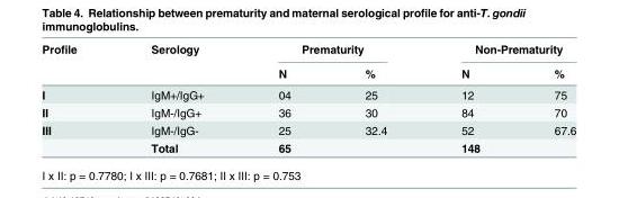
<table><thead><tr><td rowspan="2">Profile</td><td rowspan="2">Serology</td><td colspan="2">Prematurity</td><td colspan="2">Non-Prematurity</td></tr><tr><td>N</td><td>%</td><td>N</td><td>%</td></tr></thead><tbody><tr><td>I</td><td>IgM+/IgG+</td><td>04</td><td>25</td><td>12</td><td>75</td></tr><tr><td>II</td><td>IgM-/IgG+</td><td>36</td><td>30</td><td>84</td><td>70</td></tr><tr><td rowspan="2">III</td><td>IgM-/IgG-</td><td>25</td><td>32.4</td><td>52</td><td>67.6</td></tr><tr><td>Total</td><td>65</td><td></td><td>148</td><td></td></tr></tbody></table>